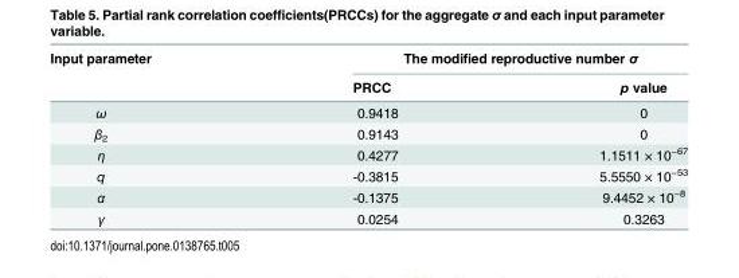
<table><thead><tr><td rowspan="2">Input parameter</td><td colspan="2">The modified reproductive number σ</td></tr><tr><td>PRCC</td><td>p value</td></tr></thead><tbody><tr><td>ω</td><td>0.9418</td><td>0</td></tr><tr><td>β<sub>2</sub></td><td>0.9143</td><td>0</td></tr><tr><td>η</td><td>0.4277</td><td>1.1511 × 10<sup>−67</sup></td></tr><tr><td>q</td><td>-0.3815</td><td>5.5550 × 10<sup>−53</sup></td></tr><tr><td>α</td><td>-0.1375</td><td>9.4452 × 10<sup>−8</sup></td></tr><tr><td>γ</td><td>0.0254</td><td>0.3263</td></tr></tbody></table>